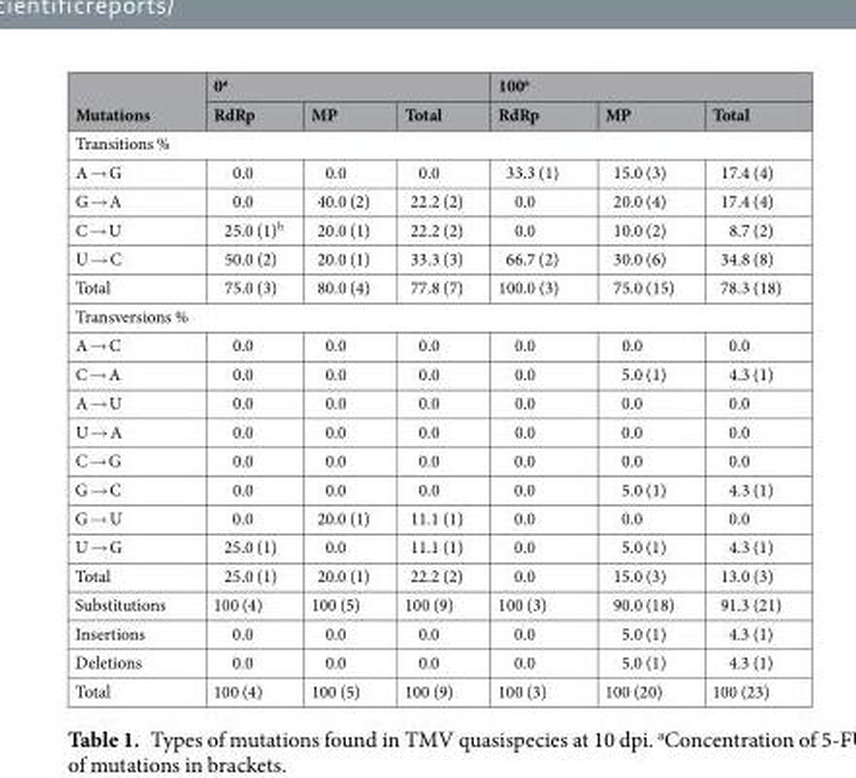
<table><thead><tr><td rowspan="2">Mutations</td><td colspan="3">0<sup>a</sup></td><td colspan="3">100<sup>a</sup></td></tr><tr><td>RdRp</td><td>MP</td><td>Total</td><td>RdRp</td><td>MP</td><td>Total</td></tr></thead><tbody><tr><td colspan="7">Transitions %</td></tr><tr><td>A → G</td><td>0.0</td><td>0.0</td><td>0.0</td><td>33.3 (1)</td><td>15.0 (3)</td><td>17.4 (4)</td></tr><tr><td>G → A</td><td>0.0</td><td>40.0 (2)</td><td>22.2 (2)</td><td>0.0</td><td>20.0 (4)</td><td>17.4 (4)</td></tr><tr><td>C → U</td><td>25.0 (1)<sup>b</sup></td><td>20.0 (1)</td><td>22.2 (2)</td><td>0.0</td><td>10.0 (2)</td><td>8.7 (2)</td></tr><tr><td>U → C</td><td>50.0 (2)</td><td>20.0 (1)</td><td>33.3 (3)</td><td>66.7 (2)</td><td>30.0 (6)</td><td>34.8 (8)</td></tr><tr><td>Total</td><td>75.0 (3)</td><td>80.0 (4)</td><td>77.8 (7)</td><td>100.0 (3)</td><td>75.0 (15)</td><td>78.3 (18)</td></tr><tr><td colspan="7">Transversions %</td></tr><tr><td>A → C</td><td>0.0</td><td>0.0</td><td>0.0</td><td>0.0</td><td>0.0</td><td>0.0</td></tr><tr><td>C → A</td><td>0.0</td><td>0.0</td><td>0.0</td><td>0.0</td><td>5.0 (1)</td><td>4.3 (1)</td></tr><tr><td>A → U</td><td>0.0</td><td>0.0</td><td>0.0</td><td>0.0</td><td>0.0</td><td>0.0</td></tr><tr><td>U → A</td><td>0.0</td><td>0.0</td><td>0.0</td><td>0.0</td><td>0.0</td><td>0.0</td></tr><tr><td>C → G</td><td>0.0</td><td>0.0</td><td>0.0</td><td>0.0</td><td>0.0</td><td>0.0</td></tr><tr><td>G → C</td><td>0.0</td><td>0.0</td><td>0.0</td><td>0.0</td><td>5.0 (1)</td><td>4.3 (1)</td></tr><tr><td>G → U</td><td>0.0</td><td>20.0 (1)</td><td>11.1 (1)</td><td>0.0</td><td>0.0</td><td>0.0</td></tr><tr><td>U → G</td><td>25.0 (1)</td><td>0.0</td><td>11.1 (1)</td><td>0.0</td><td>5.0 (1)</td><td>4.3 (1)</td></tr><tr><td>Total</td><td>25.0 (1)</td><td>20.0 (1)</td><td>22.2 (2)</td><td>0.0</td><td>15.0 (3)</td><td>13.0 (3)</td></tr><tr><td>Substitutions</td><td>100 (4)</td><td>100 (5)</td><td>100 (9)</td><td>100 (3)</td><td>90.0 (18)</td><td>91.3 (21)</td></tr><tr><td>Insertions</td><td>0.0</td><td>0.0</td><td>0.0</td><td>0.0</td><td>5.0 (1)</td><td>4.3 (1)</td></tr><tr><td>Deletions</td><td>0.0</td><td>0.0</td><td>0.0</td><td>0.0</td><td>5.0 (1)</td><td>4.3 (1)</td></tr><tr><td>Total</td><td>100 (4)</td><td>100 (5)</td><td>100 (9)</td><td>100 (3)</td><td>100 (20)</td><td>100 (23)</td></tr></tbody></table>